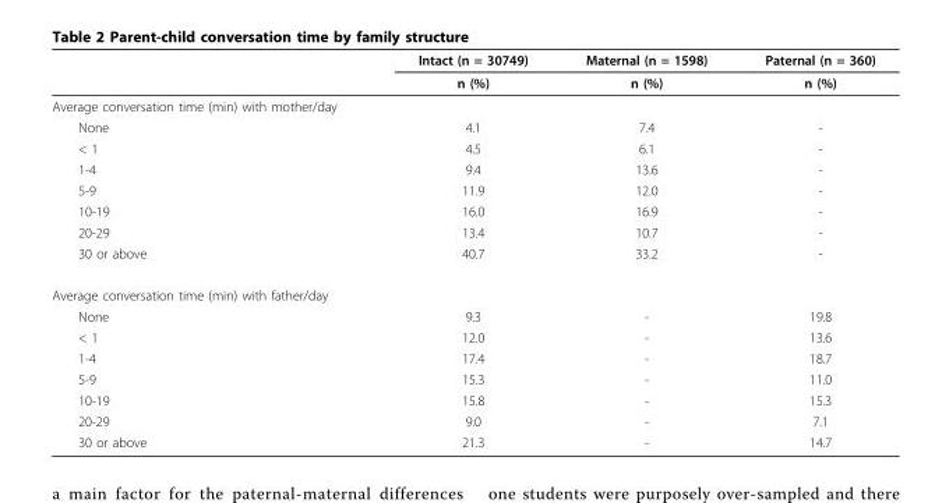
<table><thead><tr><td rowspan="2"></td><td rowspan="2">Intact (n = 30749) n (%)</td><td rowspan="2">Maternal (n = 1598) n (%)</td><td rowspan="2">Paternal (n = 360) n (%)</td></tr><tr></tr></thead><tbody><tr><td colspan="4">Average conversation time (min) with mother/day</td></tr><tr><td>None</td><td>4.1</td><td>7.4</td><td>-</td></tr><tr><td>&lt; 1</td><td>4.5</td><td>6.1</td><td>-</td></tr><tr><td>1-4</td><td>9.4</td><td>13.6</td><td>-</td></tr><tr><td>5-9</td><td>11.9</td><td>12.0</td><td>-</td></tr><tr><td>10-19</td><td>16.0</td><td>16.9</td><td>-</td></tr><tr><td>20-29</td><td>13.4</td><td>10.7</td><td>-</td></tr><tr><td>30 or above</td><td>40.7</td><td>33.2</td><td>-</td></tr><tr><td colspan="4">Average conversation time (min) with father/day</td></tr><tr><td>None</td><td>9.3</td><td>-</td><td>19.8</td></tr><tr><td>&lt; 1</td><td>12.0</td><td>-</td><td>13.6</td></tr><tr><td>1-4</td><td>17.4</td><td>-</td><td>18.7</td></tr><tr><td>5-9</td><td>15.3</td><td>-</td><td>11.0</td></tr><tr><td>10-19</td><td>15.8</td><td>-</td><td>15.3</td></tr><tr><td>20-29</td><td>9.0</td><td>-</td><td>7.1</td></tr><tr><td>30 or above</td><td>21.3</td><td>-</td><td>14.7</td></tr></tbody></table>